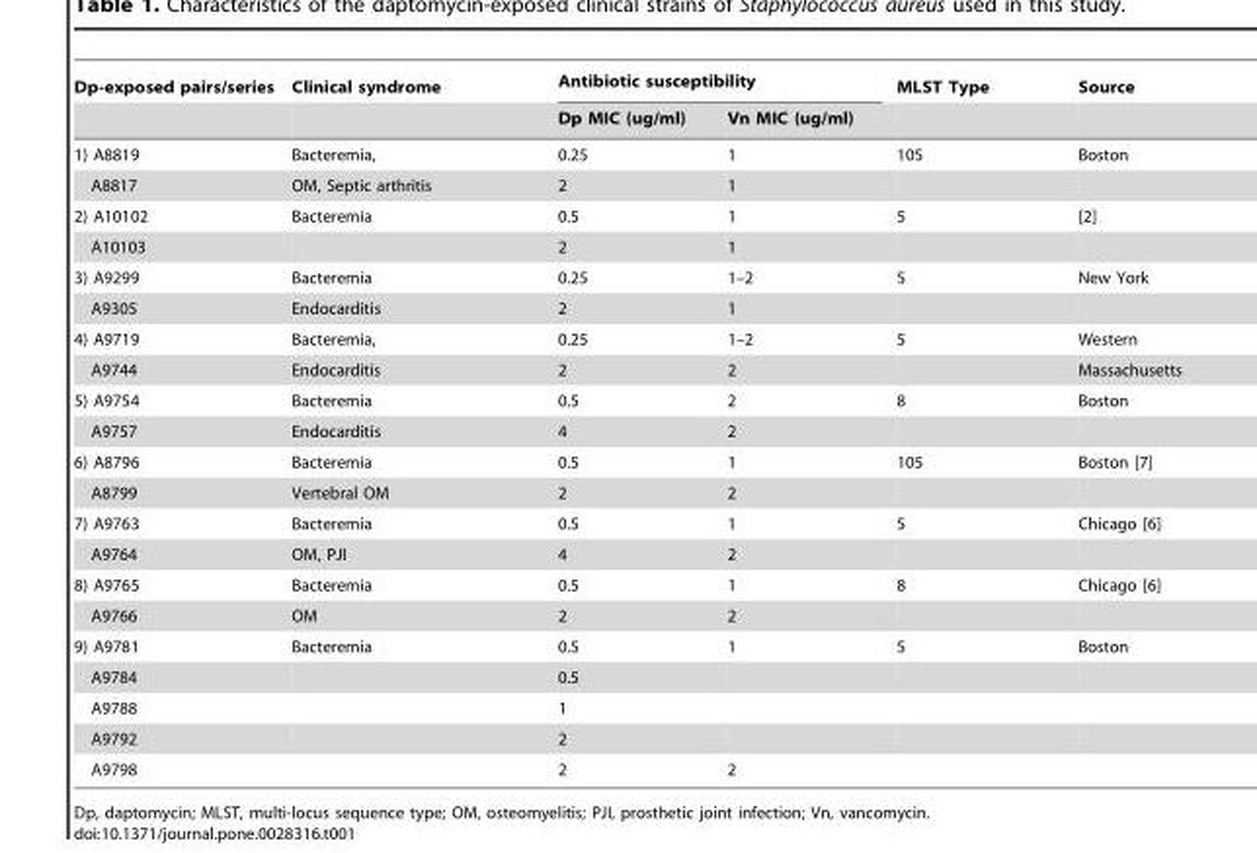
<table><thead><tr><td rowspan="2">Dp-exposed pairs/series</td><td rowspan="2">Clinical syndrome</td><td colspan="2">Antibiotic susceptibility</td><td rowspan="2">MLST Type</td><td rowspan="2">Source</td></tr><tr><td>Dp MIC (ug/ml)</td><td>Vn MIC (ug/ml)</td></tr></thead><tbody><tr><td>1) A8819</td><td>Bacteremia,</td><td>0.25</td><td>1</td><td>105</td><td>Boston</td></tr><tr><td>A8817</td><td>OM, Septic arthritis</td><td>2</td><td>1</td><td></td><td></td></tr><tr><td>2) A10102</td><td>Bacteremia</td><td>0.5</td><td>1</td><td>5</td><td>[2]</td></tr><tr><td>A10103</td><td></td><td>2</td><td>1</td><td></td><td></td></tr><tr><td>3) A9299</td><td>Bacteremia</td><td>0.25</td><td>1–2</td><td>5</td><td>New York</td></tr><tr><td>A9305</td><td>Endocarditis</td><td>2</td><td>1</td><td></td><td></td></tr><tr><td>4) A9719</td><td>Bacteremia,</td><td>0.25</td><td>1–2</td><td>5</td><td>Western</td></tr><tr><td>A9744</td><td>Endocarditis</td><td>2</td><td>2</td><td></td><td>Massachusetts</td></tr><tr><td>5) A9754</td><td>Bacteremia</td><td>0.5</td><td>2</td><td>8</td><td>Boston</td></tr><tr><td>A9757</td><td>Endocarditis</td><td>4</td><td>2</td><td></td><td></td></tr><tr><td>6) A8796</td><td>Bacteremia</td><td>0.5</td><td>1</td><td>105</td><td>Boston [7]</td></tr><tr><td>A8799</td><td>Vertebral OM</td><td>2</td><td>2</td><td></td><td></td></tr><tr><td>7) A9763</td><td>Bacteremia</td><td>0.5</td><td>1</td><td>5</td><td>Chicago [6]</td></tr><tr><td>A9764</td><td>OM, PJI</td><td>4</td><td>2</td><td></td><td></td></tr><tr><td>8) A9765</td><td>Bacteremia</td><td>0.5</td><td>1</td><td>8</td><td>Chicago [6]</td></tr><tr><td>A9766</td><td>OM</td><td>2</td><td>2</td><td></td><td></td></tr><tr><td>9) A9781</td><td>Bacteremia</td><td>0.5</td><td>1</td><td>5</td><td>Boston</td></tr><tr><td>A9784</td><td></td><td>0.5</td><td></td><td></td><td></td></tr><tr><td>A9788</td><td></td><td>1</td><td></td><td></td><td></td></tr><tr><td>A9792</td><td></td><td>2</td><td></td><td></td><td></td></tr><tr><td>A9798</td><td></td><td>2</td><td>2</td><td></td><td></td></tr></tbody></table>